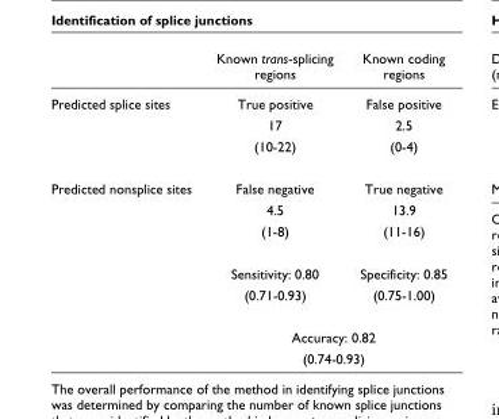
<table><thead><tr><td></td><td>Known trans-splicing regions</td><td>Known coding regions</td></tr></thead><tbody><tr><td rowspan="3">Predicted splice sites</td><td>True positive</td><td>False positive</td></tr><tr><td>17</td><td>2.5</td></tr><tr><td>(10-22)</td><td>(0-4)</td></tr><tr><td rowspan="7">Predicted nonsplice sites</td><td>False negative</td><td>True negative</td></tr><tr><td>4.5</td><td>13.9</td></tr><tr><td>(1-8)</td><td>(11-16)</td></tr><tr><td>Sensitivity: 0.80</td><td>Specificity: 0.85</td></tr><tr><td>(0.71-0.93)</td><td>(0.75-1.00)</td></tr><tr><td colspan="2">Accuracy: 0.82</td></tr><tr><td colspan="2">(0.74-0.93)</td></tr></tbody></table>